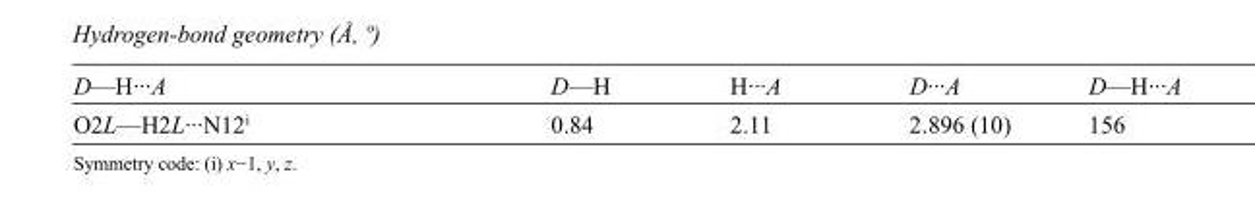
<table><tbody><tr><td>D—H···A</td><td>D—H</td><td>H···A</td><td>D···A</td><td>D—H···A</td></tr><tr><td>O2L—H2L···N12<sup>i</sup></td><td>0.84</td><td>2.11</td><td>2.896 (10)</td><td>156</td></tr></tbody></table>